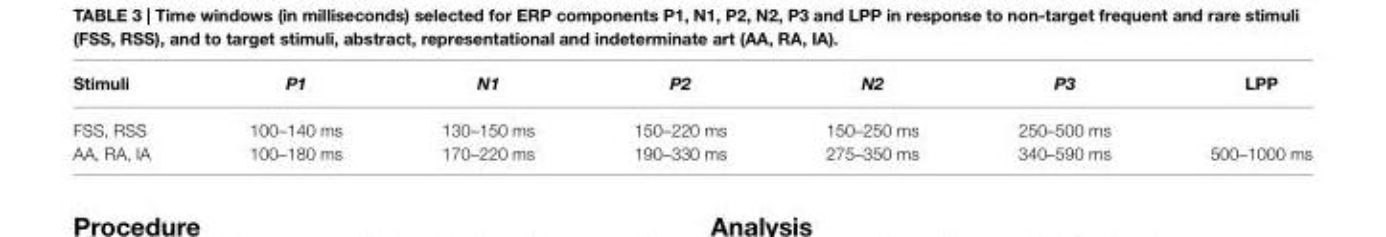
<table><thead><tr><td>Stimuli</td><td>P1</td><td>N1</td><td>P2</td><td>N2</td><td>P3</td><td>LPP</td></tr></thead><tbody><tr><td>FSS, RSS</td><td>100–140 ms</td><td>130–150 ms</td><td>150–220 ms</td><td>150–250 ms</td><td>250–500 ms</td><td></td></tr><tr><td>AA, RA, IA</td><td>100–180 ms</td><td>170–220 ms</td><td>190–330 ms</td><td>275–350 ms</td><td>340–590 ms</td><td>500–1000 ms</td></tr></tbody></table>